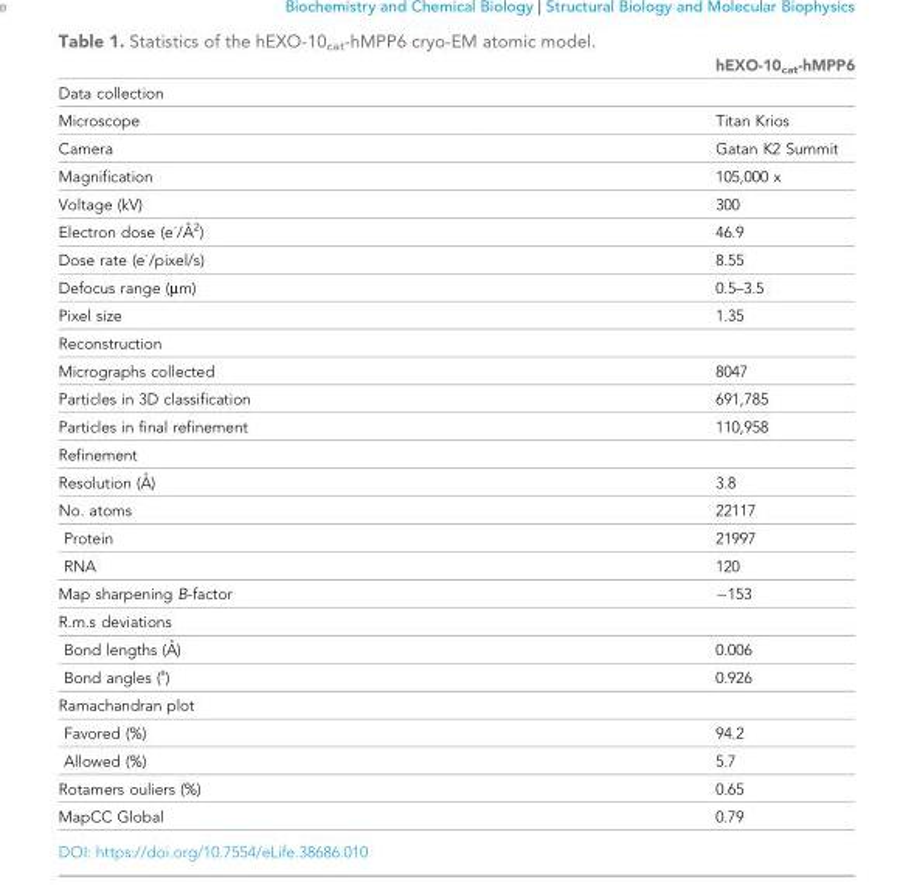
<table><thead><tr><td></td><td>hEXO-10<sub>cat</sub>-hMPP6</td></tr></thead><tbody><tr><td colspan="2">Data collection</td></tr><tr><td>Microscope</td><td>Titan Krios</td></tr><tr><td>Camera</td><td>Gatan K2 Summit</td></tr><tr><td>Magnification</td><td>105,000 x</td></tr><tr><td>Voltage (kV)</td><td>300</td></tr><tr><td>Electron dose (e-/A˚ 2)</td><td>46.9</td></tr><tr><td>Dose rate (e<sup>-</sup>/pixel/s)</td><td>8.55</td></tr><tr><td>Defocus range (μm)</td><td>0.5–3.5</td></tr><tr><td>Pixel size</td><td>1.35</td></tr><tr><td colspan="2">Reconstruction</td></tr><tr><td>Micrographs collected</td><td>8047</td></tr><tr><td>Particles in 3D classification</td><td>691,785</td></tr><tr><td>Particles in final refinement</td><td>110,958</td></tr><tr><td colspan="2">Refinement</td></tr><tr><td>Resolution (A˚ )</td><td>3.8</td></tr><tr><td>No. atoms</td><td>22117</td></tr><tr><td>Protein</td><td>21997</td></tr><tr><td>RNA</td><td>120</td></tr><tr><td>Map sharpening B-factor</td><td>−153</td></tr><tr><td colspan="2">R.m.s deviations</td></tr><tr><td>Bond lengths (A˚ )</td><td>0.006</td></tr><tr><td>Bond angles (˚)</td><td>0.926</td></tr><tr><td colspan="2">Ramachandran plot</td></tr><tr><td>Favored (%)</td><td>94.2</td></tr><tr><td>Allowed (%)</td><td>5.7</td></tr><tr><td>Rotamers ouliers (%)</td><td>0.65</td></tr><tr><td>MapCC Global</td><td>0.79</td></tr></tbody></table>